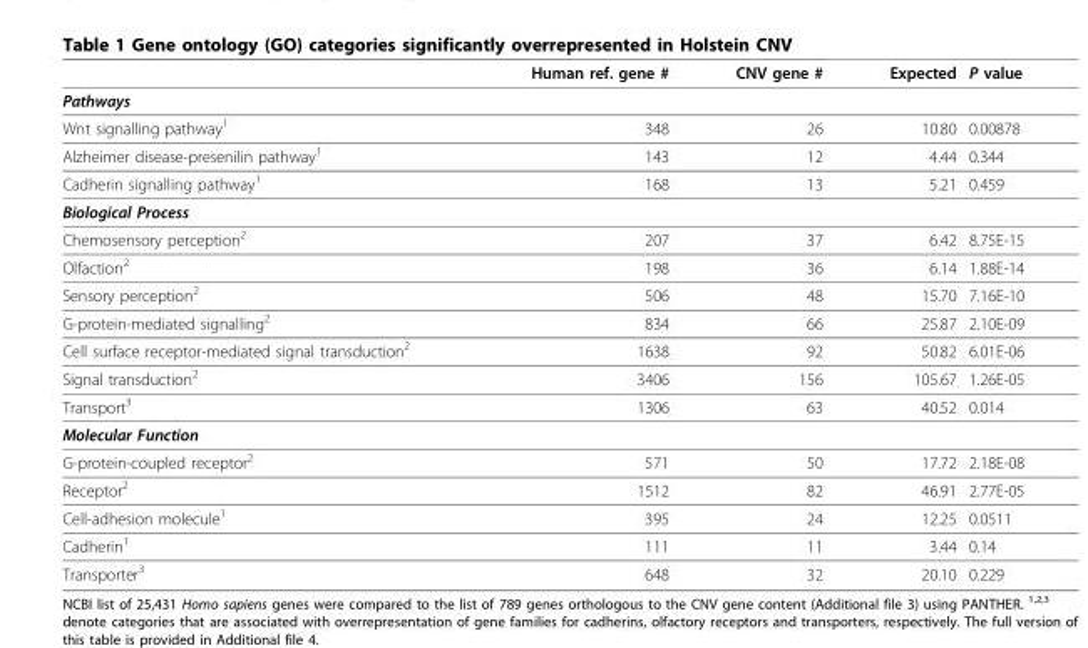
<table><thead><tr><td></td><td>Human ref. gene #</td><td>CNV gene #</td><td>Expected</td><td>P value</td></tr></thead><tbody><tr><td colspan="5">Pathways</td></tr><tr><td>Wnt signalling pathway<sup>1</sup></td><td>348</td><td>26</td><td>10.80</td><td>0.00878</td></tr><tr><td>Alzheimer disease-presenilin pathway<sup>1</sup></td><td>143</td><td>12</td><td>4.44</td><td>0.344</td></tr><tr><td>Cadherin signalling pathway<sup>1</sup></td><td>168</td><td>13</td><td>5.21</td><td>0.459</td></tr><tr><td colspan="5">Biological Process</td></tr><tr><td>Chemosensory perception<sup>2</sup></td><td>207</td><td>37</td><td>6.42</td><td>8.75E-15</td></tr><tr><td>Olfaction<sup>2</sup></td><td>198</td><td>36</td><td>6.14</td><td>1.88E-14</td></tr><tr><td>Sensory perception<sup>2</sup></td><td>506</td><td>48</td><td>15.70</td><td>7.16E-10</td></tr><tr><td>G-protein-mediated signalling<sup>2</sup></td><td>834</td><td>66</td><td>25.87</td><td>2.10E-09</td></tr><tr><td>Cell surface receptor-mediated signal transduction<sup>2</sup></td><td>1638</td><td>92</td><td>50.82</td><td>6.01E-06</td></tr><tr><td>Signal transduction<sup>2</sup></td><td>3406</td><td>156</td><td>105.67</td><td>1.26E-05</td></tr><tr><td>Transport<sup>3</sup></td><td>1306</td><td>63</td><td>40.52</td><td>0.014</td></tr><tr><td colspan="5">Molecular Function</td></tr><tr><td>G-protein-coupled receptor<sup>2</sup></td><td>571</td><td>50</td><td>17.72</td><td>2.18E-08</td></tr><tr><td>Receptor<sup>2</sup></td><td>1512</td><td>82</td><td>46.91</td><td>2.77E-05</td></tr><tr><td>Cell-adhesion molecule<sup>1</sup></td><td>395</td><td>24</td><td>12.25</td><td>0.0511</td></tr><tr><td>Cadherin<sup>1</sup></td><td>111</td><td>11</td><td>3.44</td><td>0.14</td></tr><tr><td>Transporter<sup>3</sup></td><td>648</td><td>32</td><td>20.10</td><td>0.229</td></tr></tbody></table>